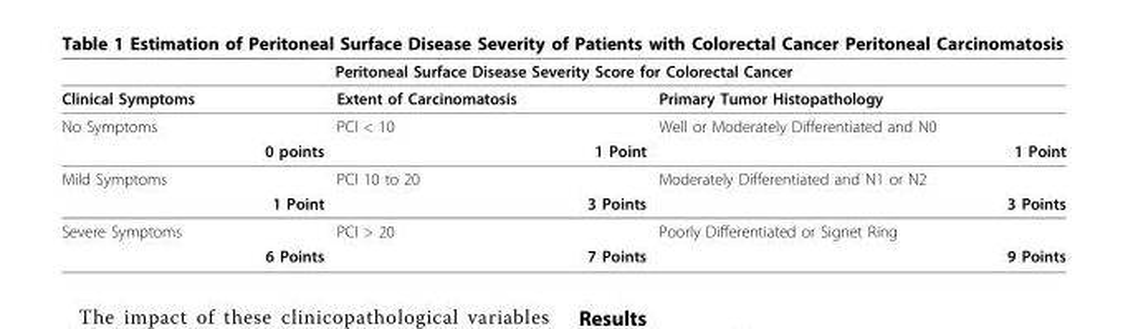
<table><thead><tr><td colspan="3">Peritoneal Surface Disease Severity Score for Colorectal Cancer</td></tr><tr><td>Clinical Symptoms</td><td>Extent of Carcinomatosis</td><td>Primary Tumor Histopathology</td></tr></thead><tbody><tr><td>No Symptoms</td><td>PCI &lt; 10</td><td>Well or Moderately Differentiated and N0</td></tr><tr><td>0 points</td><td>1 Point</td><td>1 Point</td></tr><tr><td>Mild Symptoms</td><td>PCI 10 to 20</td><td>Moderately Differentiated and N1 or N2</td></tr><tr><td>1 Point</td><td>3 Points</td><td>3 Points</td></tr><tr><td>Severe Symptoms</td><td>PCI &gt; 20</td><td>Poorly Differentiated or Signet Ring</td></tr><tr><td>6 Points</td><td>7 Points</td><td>9 Points</td></tr></tbody></table>